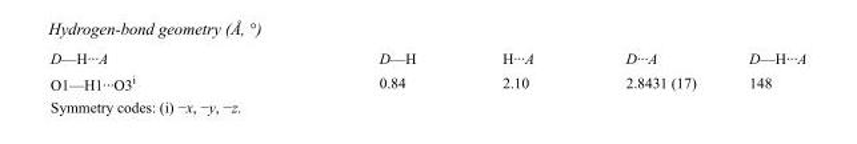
<table><tbody><tr><td>D—H···A</td><td>D—H</td><td>H···A</td><td>D···A</td><td>D—H···A</td></tr><tr><td>O1—H1···O3<sup>i</sup></td><td>0.84</td><td>2.10</td><td>2.8431 (17)</td><td>148</td></tr></tbody></table>